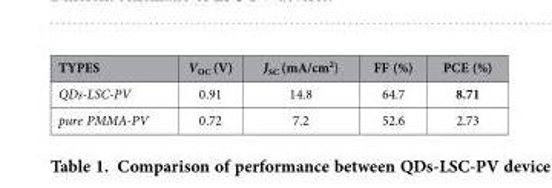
<table><thead><tr><td>TYPES</td><td>V<sub>OC</sub> (V)</td><td>J<sub>SC</sub> (mA/cm<sup>2</sup>)</td><td>FF (%)</td><td>PCE (%)</td></tr></thead><tbody><tr><td>QDs-LSC-PV</td><td>0.91</td><td>14.8</td><td>64.7</td><td>8.71</td></tr><tr><td>pure PMMA-PV</td><td>0.72</td><td>7.2</td><td>52.6</td><td>2.73</td></tr></tbody></table>